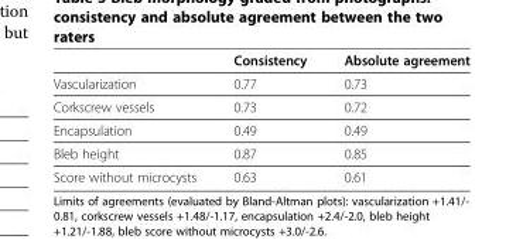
<table><thead><tr><td></td><td>Consistency</td><td>Absolute agreement</td></tr></thead><tbody><tr><td>Vascularization</td><td>0.77</td><td>0.73</td></tr><tr><td>Corkscrew vessels</td><td>0.73</td><td>0.72</td></tr><tr><td>Encapsulation</td><td>0.49</td><td>0.49</td></tr><tr><td>Bleb height</td><td>0.87</td><td>0.85</td></tr><tr><td>Score without microcysts</td><td>0.63</td><td>0.61</td></tr></tbody></table>